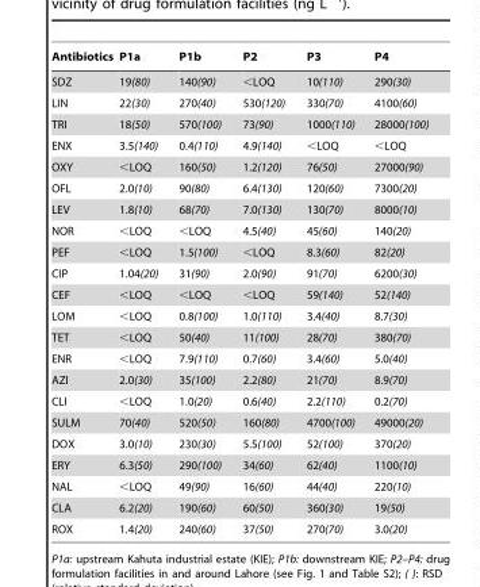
<table><thead><tr><td>Antibiotics</td><td>P1a</td><td>P1b</td><td>P2</td><td>P3</td><td>P4</td></tr></thead><tbody><tr><td>SDZ</td><td>19(80)</td><td>140(90)</td><td>&lt;LOQ</td><td>10(110)</td><td>290(30)</td></tr><tr><td>LIN</td><td>22(30)</td><td>270(40)</td><td>530(120)</td><td>330(70)</td><td>4100(60)</td></tr><tr><td>TRI</td><td>18(50)</td><td>570(100)</td><td>73(90)</td><td>1000(110)</td><td>28000(100)</td></tr><tr><td>ENX</td><td>3.5(140)</td><td>0.4(110)</td><td>4.9(140)</td><td>&lt;LOQ</td><td>&lt;LOQ</td></tr><tr><td>OXY</td><td>&lt;LOQ</td><td>160(50)</td><td>1.2(120)</td><td>76(50)</td><td>27000(90)</td></tr><tr><td>OFL</td><td>2.0(10)</td><td>90(80)</td><td>6.4(130)</td><td>120(60)</td><td>7300(20)</td></tr><tr><td>LEV</td><td>1.8(10)</td><td>68(70)</td><td>7.0(130)</td><td>130(70)</td><td>8000(10)</td></tr><tr><td>NOR</td><td>&lt;LOQ</td><td>&lt;LOQ</td><td>4.5(40)</td><td>45(60)</td><td>140(20)</td></tr><tr><td>PEF</td><td>&lt;LOQ</td><td>1.5(100)</td><td>&lt;LOQ</td><td>8.3(60)</td><td>82(20)</td></tr><tr><td>CIP</td><td>1.04(20)</td><td>31(90)</td><td>2.0(90)</td><td>91(70)</td><td>6200(30)</td></tr><tr><td>CEF</td><td>&lt;LOQ</td><td>&lt;LOQ</td><td>&lt;LOQ</td><td>59(140)</td><td>52(140)</td></tr><tr><td>LOM</td><td>&lt;LOQ</td><td>0.8(100)</td><td>1.0(110)</td><td>3.4(40)</td><td>8.7(30)</td></tr><tr><td>TET</td><td>&lt;LOQ</td><td>50(40)</td><td>11(100)</td><td>28(70)</td><td>380(70)</td></tr><tr><td>ENR</td><td>&lt;LOQ</td><td>7.9(110)</td><td>0.7(60)</td><td>3.4(60)</td><td>5.0(40)</td></tr><tr><td>AZI</td><td>2.0(30)</td><td>35(100)</td><td>2.2(80)</td><td>21(70)</td><td>8.9(70)</td></tr><tr><td>CLI</td><td>&lt;LOQ</td><td>1.0(20)</td><td>0.6(40)</td><td>2.2(110)</td><td>0.2(70)</td></tr><tr><td>SULM</td><td>70(40)</td><td>520(50)</td><td>160(80)</td><td>4700(100)</td><td>49000(20)</td></tr><tr><td>DOX</td><td>3.0(10)</td><td>230(30)</td><td>5.5(100)</td><td>52(100)</td><td>370(20)</td></tr><tr><td>ERY</td><td>6.3(50)</td><td>290(100)</td><td>34(60)</td><td>62(40)</td><td>1100(10)</td></tr><tr><td>NAL</td><td>&lt;LOQ</td><td>49(90)</td><td>16(60)</td><td>44(40)</td><td>220(10)</td></tr><tr><td>CLA</td><td>6.2(20)</td><td>190(60)</td><td>60(50)</td><td>360(30)</td><td>19(50)</td></tr><tr><td>ROX</td><td>1.4(20)</td><td>240(60)</td><td>37(50)</td><td>270(70)</td><td>3.0(20)</td></tr></tbody></table>